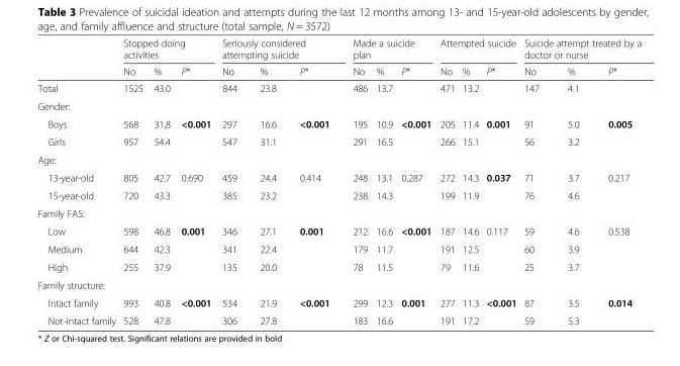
<table><thead><tr><td rowspan="2"></td><td colspan="3">Stopped doing activities</td><td colspan="3">Seriously considered attempting suicide</td><td colspan="3">Made a suicide plan</td><td colspan="3">Attempted suicide</td><td colspan="3">Suicide attempt treated by a doctor or nurse</td></tr><tr><td>No</td><td>%</td><td>P*</td><td>No</td><td>%</td><td>P*</td><td>No</td><td>%</td><td>P*</td><td>No</td><td>%</td><td>P*</td><td>No</td><td>%</td><td>P*</td></tr></thead><tbody><tr><td>Total</td><td>1525</td><td>43.0</td><td></td><td>844</td><td>23.8</td><td></td><td>486</td><td>13.7</td><td></td><td>471</td><td>13.2</td><td></td><td>147</td><td>4.1</td><td></td></tr><tr><td colspan="16">Gender:</td></tr><tr><td>Boys</td><td>568</td><td>31,8</td><td>&lt;0.001</td><td>297</td><td>16.6</td><td>&lt;0.001</td><td>195</td><td>10.9</td><td>&lt;0.001</td><td>205</td><td>11.4</td><td>0.001</td><td>91</td><td>5.0</td><td>0.005</td></tr><tr><td>Girls</td><td>957</td><td>54.4</td><td></td><td>547</td><td>31.1</td><td></td><td>291</td><td>16.5</td><td></td><td>266</td><td>15.1</td><td></td><td>56</td><td>3.2</td><td></td></tr><tr><td colspan="16">Age:</td></tr><tr><td>13-year-old</td><td>805</td><td>42.7</td><td>0.690</td><td>459</td><td>24.4</td><td>0.414</td><td>248</td><td>13.1</td><td>0.287</td><td>272</td><td>14.3</td><td>0.037</td><td>71</td><td>3.7</td><td>0.217</td></tr><tr><td>15-year-old</td><td>720</td><td>43.3</td><td></td><td>385</td><td>23.2</td><td></td><td>238</td><td>14.3</td><td></td><td>199</td><td>11.9</td><td></td><td>76</td><td>4.6</td><td></td></tr><tr><td colspan="16">Family FAS:</td></tr><tr><td>Low</td><td>598</td><td>46.8</td><td>0.001</td><td>346</td><td>27.1</td><td>0.001</td><td>212</td><td>16.6</td><td>&lt;0.001</td><td>187</td><td>14.6</td><td>0.117</td><td>59</td><td>4.6</td><td>0.538</td></tr><tr><td>Medium</td><td>644</td><td>42.3</td><td></td><td>341</td><td>22.4</td><td></td><td>179</td><td>11.7</td><td></td><td>191</td><td>12.5</td><td></td><td>60</td><td>3.9</td><td></td></tr><tr><td>High</td><td>255</td><td>37.9</td><td></td><td>135</td><td>20.0</td><td></td><td>78</td><td>11.5</td><td></td><td>79</td><td>11.6</td><td></td><td>25</td><td>3.7</td><td></td></tr><tr><td colspan="16">Family structure:</td></tr><tr><td>Intact family</td><td>993</td><td>40.8</td><td>&lt;0.001</td><td>534</td><td>21.9</td><td>&lt;0.001</td><td>299</td><td>12.3</td><td>0.001</td><td>277</td><td>11.3</td><td>&lt;0.001</td><td>87</td><td>3.5</td><td>0.014</td></tr><tr><td>Not-intact family</td><td>528</td><td>47.8</td><td></td><td>306</td><td>27.8</td><td></td><td>183</td><td>16.6</td><td></td><td>191</td><td>17.2</td><td></td><td>59</td><td>5.3</td><td></td></tr></tbody></table>